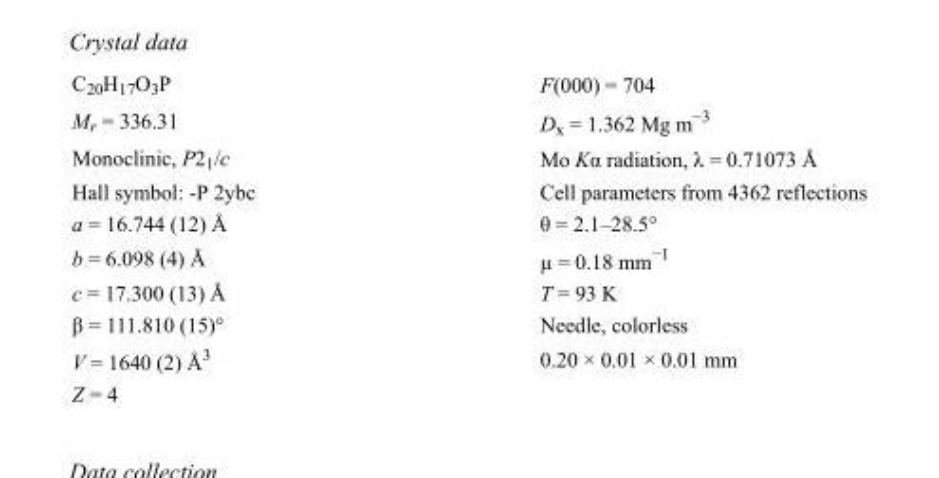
<table><tbody><tr><td>C<sub>20</sub>H<sub>17</sub>O<sub>3</sub>P</td><td>F(000) = 704</td></tr><tr><td>M<sub>r</sub> = 336.31</td><td>D<sub>x</sub> = 1.362 Mg m<sup>−3</sup></td></tr><tr><td>Monoclinic, P2<sub>1</sub>/c</td><td>Mo Kα radiation, λ = 0.71073 Å</td></tr><tr><td>Hall symbol: -P 2ybc</td><td>Cell parameters from 4362 reflections</td></tr><tr><td>a = 16.744 (12) Å</td><td>θ = 2.1–28.5°</td></tr><tr><td>b = 6.098 (4) Å</td><td>µ = 0.18 mm<sup>−1</sup></td></tr><tr><td>c = 17.300 (13) Å</td><td>T = 93 K</td></tr><tr><td>β = 111.810 (15)°</td><td>Needle, colorless</td></tr><tr><td>V = 1640 (2) Å<sup>3</sup></td><td>0.20 × 0.01 × 0.01 mm</td></tr><tr><td>Z = 4</td><td></td></tr></tbody></table>